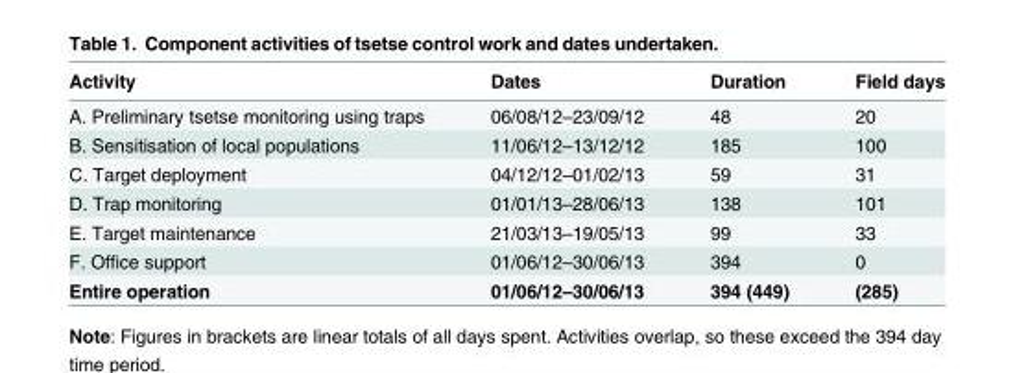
<table><thead><tr><td>Activity</td><td>Dates</td><td>Duration</td><td>Field days</td></tr></thead><tbody><tr><td>A. Preliminary tsetse monitoring using traps</td><td>06/08/12–23/09/12</td><td>48</td><td>20</td></tr><tr><td>B. Sensitisation of local populations</td><td>11/06/12–13/12/12</td><td>185</td><td>100</td></tr><tr><td>C. Target deployment</td><td>04/12/12–01/02/13</td><td>59</td><td>31</td></tr><tr><td>D. Trap monitoring</td><td>01/01/13–28/06/13</td><td>138</td><td>101</td></tr><tr><td>E. Target maintenance</td><td>21/03/13–19/05/13</td><td>99</td><td>33</td></tr><tr><td>F. Office support</td><td>01/06/12–30/06/13</td><td>394</td><td>0</td></tr><tr><td>Entire operation</td><td>01/06/12–30/06/13</td><td>394 (449)</td><td>(285)</td></tr></tbody></table>